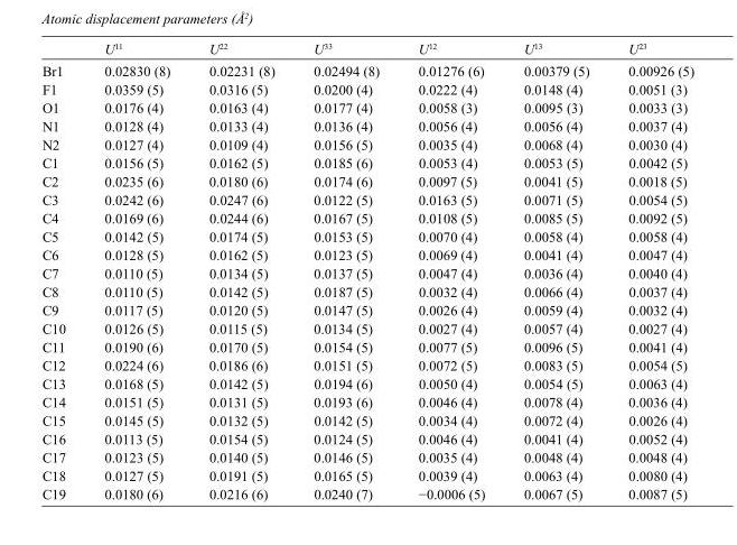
<table><thead><tr><td></td><td>U<sup>11</sup></td><td>U<sup>22</sup></td><td>U<sup>33</sup></td><td>U<sup>12</sup></td><td>U<sup>13</sup></td><td>U<sup>23</sup></td></tr></thead><tbody><tr><td>Br1</td><td>0.02830 (8)</td><td>0.02231 (8)</td><td>0.02494 (8)</td><td>0.01276 (6)</td><td>0.00379 (5)</td><td>0.00926 (5)</td></tr><tr><td>F1</td><td>0.0359 (5)</td><td>0.0316 (5)</td><td>0.0200 (4)</td><td>0.0222 (4)</td><td>0.0148 (4)</td><td>0.0051 (3)</td></tr><tr><td>O1</td><td>0.0176 (4)</td><td>0.0163 (4)</td><td>0.0177 (4)</td><td>0.0058 (3)</td><td>0.0095 (3)</td><td>0.0033 (3)</td></tr><tr><td>N1</td><td>0.0128 (4)</td><td>0.0133 (4)</td><td>0.0136 (4)</td><td>0.0056 (4)</td><td>0.0056 (4)</td><td>0.0037 (4)</td></tr><tr><td>N2</td><td>0.0127 (4)</td><td>0.0109 (4)</td><td>0.0156 (5)</td><td>0.0035 (4)</td><td>0.0068 (4)</td><td>0.0030 (4)</td></tr><tr><td>C1</td><td>0.0156 (5)</td><td>0.0162 (5)</td><td>0.0185 (6)</td><td>0.0053 (4)</td><td>0.0053 (5)</td><td>0.0042 (5)</td></tr><tr><td>C2</td><td>0.0235 (6)</td><td>0.0180 (6)</td><td>0.0174 (6)</td><td>0.0097 (5)</td><td>0.0041 (5)</td><td>0.0018 (5)</td></tr><tr><td>C3</td><td>0.0242 (6)</td><td>0.0247 (6)</td><td>0.0122 (5)</td><td>0.0163 (5)</td><td>0.0071 (5)</td><td>0.0054 (5)</td></tr><tr><td>C4</td><td>0.0169 (6)</td><td>0.0244 (6)</td><td>0.0167 (5)</td><td>0.0108 (5)</td><td>0.0085 (5)</td><td>0.0092 (5)</td></tr><tr><td>C5</td><td>0.0142 (5)</td><td>0.0174 (5)</td><td>0.0153 (5)</td><td>0.0070 (4)</td><td>0.0058 (4)</td><td>0.0058 (4)</td></tr><tr><td>C6</td><td>0.0128 (5)</td><td>0.0162 (5)</td><td>0.0123 (5)</td><td>0.0069 (4)</td><td>0.0041 (4)</td><td>0.0047 (4)</td></tr><tr><td>C7</td><td>0.0110 (5)</td><td>0.0134 (5)</td><td>0.0137 (5)</td><td>0.0047 (4)</td><td>0.0036 (4)</td><td>0.0040 (4)</td></tr><tr><td>C8</td><td>0.0110 (5)</td><td>0.0142 (5)</td><td>0.0187 (5)</td><td>0.0032 (4)</td><td>0.0066 (4)</td><td>0.0037 (4)</td></tr><tr><td>C9</td><td>0.0117 (5)</td><td>0.0120 (5)</td><td>0.0147 (5)</td><td>0.0026 (4)</td><td>0.0059 (4)</td><td>0.0032 (4)</td></tr><tr><td>C10</td><td>0.0126 (5)</td><td>0.0115 (5)</td><td>0.0134 (5)</td><td>0.0027 (4)</td><td>0.0057 (4)</td><td>0.0027 (4)</td></tr><tr><td>C11</td><td>0.0190 (6)</td><td>0.0170 (5)</td><td>0.0154 (5)</td><td>0.0077 (5)</td><td>0.0096 (5)</td><td>0.0041 (4)</td></tr><tr><td>C12</td><td>0.0224 (6)</td><td>0.0186 (6)</td><td>0.0151 (5)</td><td>0.0072 (5)</td><td>0.0083 (5)</td><td>0.0054 (5)</td></tr><tr><td>C13</td><td>0.0168 (5)</td><td>0.0142 (5)</td><td>0.0194 (6)</td><td>0.0050 (4)</td><td>0.0054 (5)</td><td>0.0063 (4)</td></tr><tr><td>C14</td><td>0.0151 (5)</td><td>0.0131 (5)</td><td>0.0193 (6)</td><td>0.0046 (4)</td><td>0.0078 (4)</td><td>0.0036 (4)</td></tr><tr><td>C15</td><td>0.0145 (5)</td><td>0.0132 (5)</td><td>0.0142 (5)</td><td>0.0034 (4)</td><td>0.0072 (4)</td><td>0.0026 (4)</td></tr><tr><td>C16</td><td>0.0113 (5)</td><td>0.0154 (5)</td><td>0.0124 (5)</td><td>0.0046 (4)</td><td>0.0041 (4)</td><td>0.0052 (4)</td></tr><tr><td>C17</td><td>0.0123 (5)</td><td>0.0140 (5)</td><td>0.0146 (5)</td><td>0.0035 (4)</td><td>0.0048 (4)</td><td>0.0048 (4)</td></tr><tr><td>C18</td><td>0.0127 (5)</td><td>0.0191 (5)</td><td>0.0165 (5)</td><td>0.0039 (4)</td><td>0.0063 (4)</td><td>0.0080 (4)</td></tr><tr><td>C19</td><td>0.0180 (6)</td><td>0.0216 (6)</td><td>0.0240 (7)</td><td>−0.0006 (5)</td><td>0.0067 (5)</td><td>0.0087 (5)</td></tr></tbody></table>